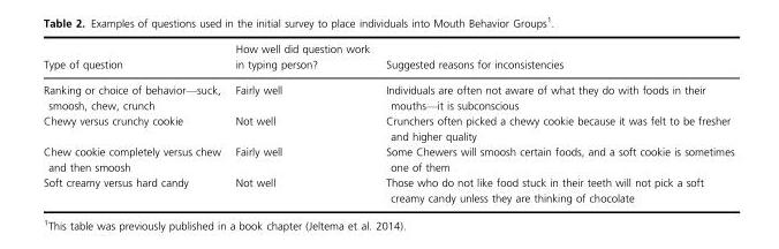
<table><thead><tr><td>Type of question</td><td>How well did question work in typing person?</td><td>Suggested reasons for inconsistencies</td></tr></thead><tbody><tr><td>Ranking or choice of behavior—suck, smoosh, chew, crunch</td><td>Fairly well</td><td>Individuals are often not aware of what they do with foods in their mouths—it is subconscious</td></tr><tr><td>Chewy versus crunchy cookie</td><td>Not well</td><td>Crunchers often picked a chewy cookie because it was felt to be fresher and higher quality</td></tr><tr><td>Chew cookie completely versus chew and then smoosh</td><td>Fairly well</td><td>Some Chewers will smoosh certain foods, and a soft cookie is sometimes one of them</td></tr><tr><td>Soft creamy versus hard candy</td><td>Not well</td><td>Those who do not like food stuck in their teeth will not pick a soft creamy candy unless they are thinking of chocolate</td></tr></tbody></table>